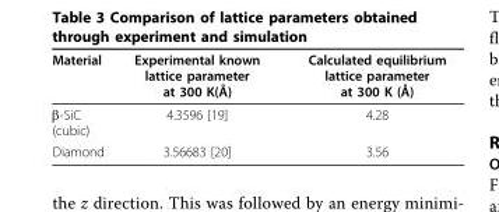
<table><thead><tr><td>Material</td><td>Experimental known lattice parameter at 300 K(Å)</td><td>Calculated equilibrium lattice parameter at 300 K (Å)</td></tr></thead><tbody><tr><td>β-SiC (cubic)</td><td>4.3596 [19]</td><td>4.28</td></tr><tr><td>Diamond</td><td>3.56683 [20]</td><td>3.56</td></tr></tbody></table>